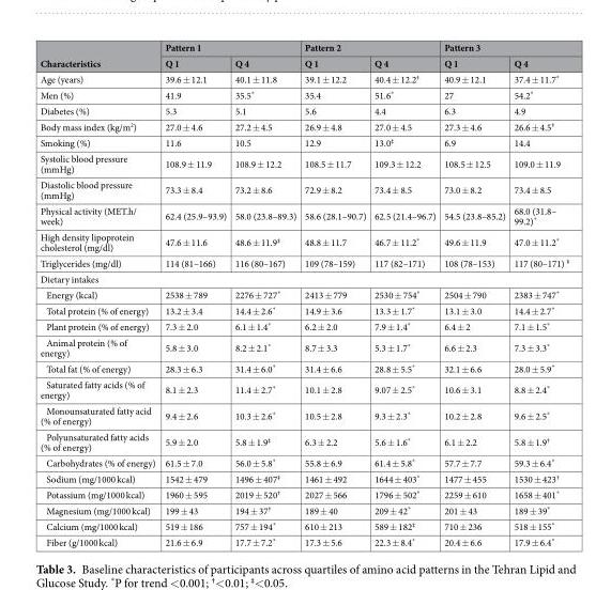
<table><thead><tr><td rowspan="2">Characteristics</td><td colspan="2">Pattern 1</td><td colspan="2">Pattern 2</td><td colspan="2">Pattern 3</td></tr><tr><td>Q 1</td><td>Q 4</td><td>Q 1</td><td>Q 4</td><td>Q 1</td><td>Q 4</td></tr></thead><tbody><tr><td>Age (years)</td><td>39.6 ± 12.1</td><td>40.1 ± 11.8</td><td>39.1 ± 12.2</td><td>40.4 ± 12.2<sup>†</sup></td><td>40.9 ± 12.1</td><td>37.4 ± 11.7*</td></tr><tr><td>Men (%)</td><td>41.9</td><td>35.5*</td><td>35.4</td><td>51.6*</td><td>27</td><td>54.2*</td></tr><tr><td>Diabetes (%)</td><td>5.3</td><td>5.1</td><td>5.6</td><td>4.4</td><td>6.3</td><td>4.9</td></tr><tr><td>Body mass index (kg/m<sup>2</sup>)</td><td>27.0 ± 4.6</td><td>27.2 ± 4.5</td><td>26.9 ± 4.8</td><td>27.0 ± 4.5</td><td>27.3 ± 4.6</td><td>26.6 ± 4.5<sup>†</sup></td></tr><tr><td>Smoking (%)</td><td>11.6</td><td>10.5</td><td>12.9</td><td>13.0<sup>‡</sup></td><td>6.9</td><td>14.4</td></tr><tr><td>Systolic blood pressure (mmHg)</td><td>108.9 ± 11.9</td><td>108.9 ± 12.2</td><td>108.5 ± 11.7</td><td>109.3 ± 12.2</td><td>108.5 ± 12.5</td><td>109.0 ± 11.9</td></tr><tr><td>Diastolic blood pressure (mmHg)</td><td>73.3 ± 8.4</td><td>73.2 ± 8.6</td><td>72.9 ± 8.2</td><td>73.4 ± 8.5</td><td>73.0 ± 8.2</td><td>73.4 ± 8.5</td></tr><tr><td>Physical activity (MET.h/ week)</td><td>62.4 (25.9–93.9)</td><td>58.0 (23.8–89.3)</td><td>58.6 (28.1–90.7)</td><td>62.5 (21.4–96.7)</td><td>54.5 (23.8–85.2)</td><td>68.0 (31.8– 99.2)*</td></tr><tr><td>High density lipoprotein cholesterol (mg/dl)</td><td>47.6 ± 11.6</td><td>48.6 ± 11.9<sup>‡</sup></td><td>48.8 ± 11.7</td><td>46.7 ± 11.2*</td><td>49.6 ± 11.9</td><td>47.0 ± 11.2*</td></tr><tr><td>Triglycerides (mg/dl)</td><td>114 (81–166)</td><td>116 (80–167)</td><td>109 (78–159)</td><td>117 (82–171)</td><td>108 (78–153)</td><td>117 (80–171) <sup>‡</sup></td></tr><tr><td colspan="7">Dietary intakes</td></tr><tr><td>Energy (kcal)</td><td>2538 ± 789</td><td>2276 ± 727*</td><td>2413 ± 779</td><td>2530 ± 754*</td><td>2504 ± 790</td><td>2383 ± 747*</td></tr><tr><td>Total protein (% of energy)</td><td>13.2 ± 3.4</td><td>14.4 ± 2.6*</td><td>14.9 ± 3.6</td><td>13.3 ± 1.7*</td><td>13.1 ± 3.0</td><td>14.4 ± 2.7*</td></tr><tr><td>Plant protein (% of energy)</td><td>7.3 ± 2.0</td><td>6.1 ± 1.4*</td><td>6.2 ± 2.0</td><td>7.9 ± 1.4*</td><td>6.4 ± 2</td><td>7.1 ± 1.5*</td></tr><tr><td>Animal protein (% of energy)</td><td>5.8 ± 3.0</td><td>8.2 ± 2.1*</td><td>8.7 ± 3.3</td><td>5.3 ± 1.7*</td><td>6.6 ± 2.3</td><td>7.3 ± 3.3*</td></tr><tr><td>Total fat (% of energy)</td><td>28.3 ± 6.3</td><td>31.4 ± 6.0*</td><td>31.4 ± 6.6</td><td>28.8 ± 5.5*</td><td>32.1 ± 6.6</td><td>28.0 ± 5.9*</td></tr><tr><td>Saturated fatty acids (% of energy)</td><td>8.1 ± 2.3</td><td>11.4 ± 2.7*</td><td>10.1 ± 2.8</td><td>9.07 ± 2.5*</td><td>10.6 ± 3.1</td><td>8.8 ± 2.4*</td></tr><tr><td>Monounsaturated fatty acid (% of energy)</td><td>9.4 ± 2.6</td><td>10.3 ± 2.6*</td><td>10.5 ± 2.8</td><td>9.3 ± 2.3*</td><td>10.2 ± 2.8</td><td>9.6 ± 2.5*</td></tr><tr><td>Polyunsaturated fatty acids (% of energy)</td><td>5.9 ± 2.0</td><td>5.8 ± 1.9<sup>‡</sup></td><td>6.3 ± 2.2</td><td>5.6 ± 1.6*</td><td>6.1 ± 2.2</td><td>5.8 ± 1.9<sup>†</sup></td></tr><tr><td>Carbohydrates (% of energy)</td><td>61.5 ± 7.0</td><td>56.0 ± 5.8*</td><td>55.8 ± 6.9</td><td>61.4 ± 5.8*</td><td>57.7 ± 7.7</td><td>59.3 ± 6.4*</td></tr><tr><td>Sodium (mg/1000 kcal)</td><td>1542 ± 479</td><td>1496 ± 407<sup>‡</sup></td><td>1461 ± 492</td><td>1644 ± 403*</td><td>1477 ± 455</td><td>1530 ± 423<sup>†</sup></td></tr><tr><td>Potassium (mg/1000 kcal)</td><td>1960 ± 595</td><td>2019 ± 520<sup>†</sup></td><td>2027 ± 566</td><td>1796 ± 502*</td><td>2259 ± 610</td><td>1658 ± 401*</td></tr><tr><td>Magnesium (mg/1000 kcal)</td><td>199 ± 43</td><td>194 ± 37<sup>†</sup></td><td>189 ± 40</td><td>209 ± 42*</td><td>201 ± 43</td><td>189 ± 39*</td></tr><tr><td>Calcium (mg/1000 kcal)</td><td>519 ± 186</td><td>757 ± 194*</td><td>610 ± 213</td><td>589 ± 182<sup>‡</sup></td><td>710 ± 236</td><td>518 ± 155*</td></tr><tr><td>Fiber (g/1000 kcal)</td><td>21.6 ± 6.9</td><td>17.7 ± 7.2*</td><td>17.3 ± 5.6</td><td>22.3 ± 8.4*</td><td>20.4 ± 6.6</td><td>17.9 ± 6.4*</td></tr></tbody></table>